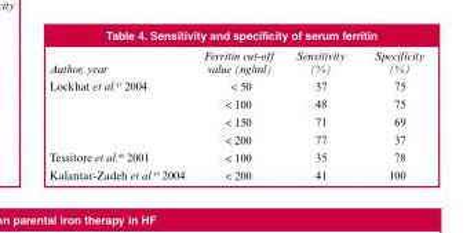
<table><thead><tr><td>Author, year</td><td>Ferritin cut-off value (ng/ml)</td><td>Sensitivity (%)</td><td>Specificity (%)</td></tr></thead><tbody><tr><td rowspan="4">Lockhat et al.47 2004</td><td>&lt; 50</td><td>37</td><td>75</td></tr><tr><td>&lt; 100</td><td>48</td><td>75</td></tr><tr><td>&lt; 150</td><td>71</td><td>69</td></tr><tr><td>&lt; 200</td><td>77</td><td>37</td></tr><tr><td>Tessitore et al.<sup>48</sup> 2001</td><td>&lt; 100</td><td>35</td><td>78</td></tr><tr><td>Kalantar-Zadeh et al.<sup>49</sup> 2004</td><td>&lt; 200</td><td>41</td><td>100</td></tr></tbody></table>